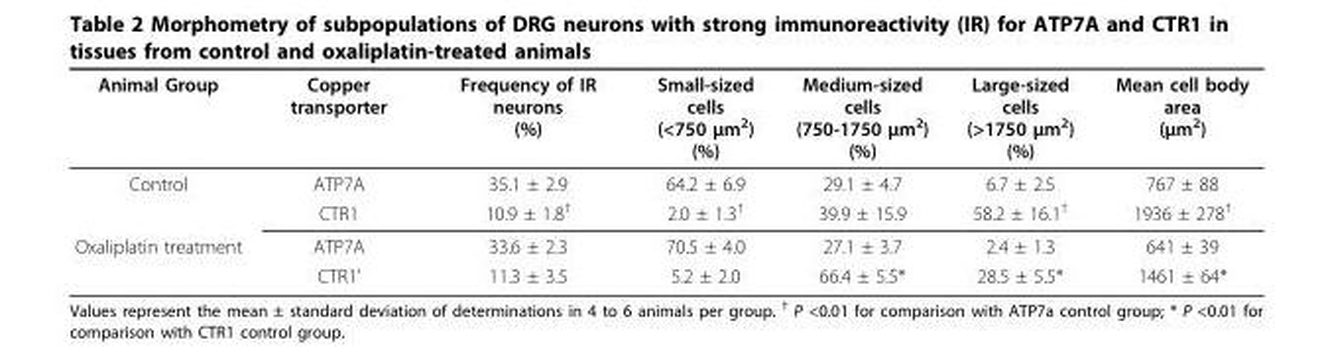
<table><thead><tr><td>Animal Group</td><td>Copper transporter</td><td>Frequency of IR neurons (%)</td><td>Small-sized cells (&lt;750 μm<sup>2</sup>) (%)</td><td>Medium-sized cells (750-1750 μm<sup>2</sup>) (%)</td><td>Large-sized cells (&gt;1750 μm<sup>2</sup>) (%)</td><td>Mean cell body area (μm<sup>2</sup>)</td></tr></thead><tbody><tr><td rowspan="2">Control</td><td>ATP7A</td><td>35.1 ± 2.9</td><td>64.2 ± 6.9</td><td>29.1 ± 4.7</td><td>6.7 ± 2.5</td><td>767 ± 88</td></tr><tr><td>CTR1</td><td>10.9 ± 1.8<sup>†</sup></td><td>2.0 ± 1.3<sup>†</sup></td><td>39.9 ± 15.9</td><td>58.2 ± 16.1<sup>†</sup></td><td>1936 ± 278<sup>†</sup></td></tr><tr><td rowspan="2">Oxaliplatin treatment</td><td>ATP7A</td><td>33.6 ± 2.3</td><td>70.5 ± 4.0</td><td>27.1 ± 3.7</td><td>2.4 ± 1.3</td><td>641 ± 39</td></tr><tr><td>CTR1’</td><td>11.3 ± 3.5</td><td>5.2 ± 2.0</td><td>66.4 ± 5.5*</td><td>28.5 ± 5.5*</td><td>1461 ± 64*</td></tr></tbody></table>